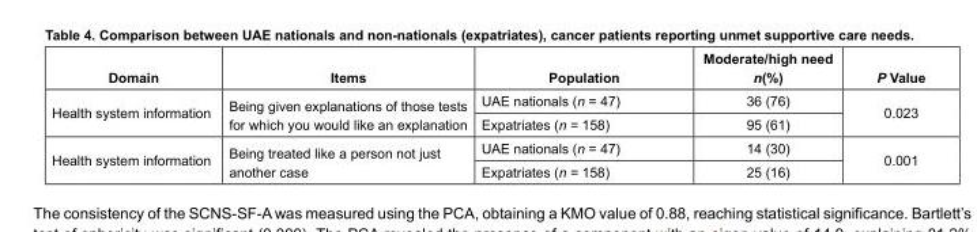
<table><thead><tr><td>Domain</td><td>Items</td><td>Population</td><td>Moderate/high need n(%)</td><td>P Value</td></tr></thead><tbody><tr><td rowspan="2">Health system information</td><td rowspan="2">Being given explanations of those tests for which you would like an explanation</td><td>UAE nationals (n = 47)</td><td>36 (76)</td><td rowspan="2">0.023</td></tr><tr><td>Expatriates (n = 158)</td><td>95 (61)</td></tr><tr><td rowspan="2">Health system information</td><td rowspan="2">Being treated like a person not just another case</td><td>UAE nationals (n = 47)</td><td>14 (30)</td><td rowspan="2">0.001</td></tr><tr><td>Expatriates (n = 158)</td><td>25 (16)</td></tr></tbody></table>